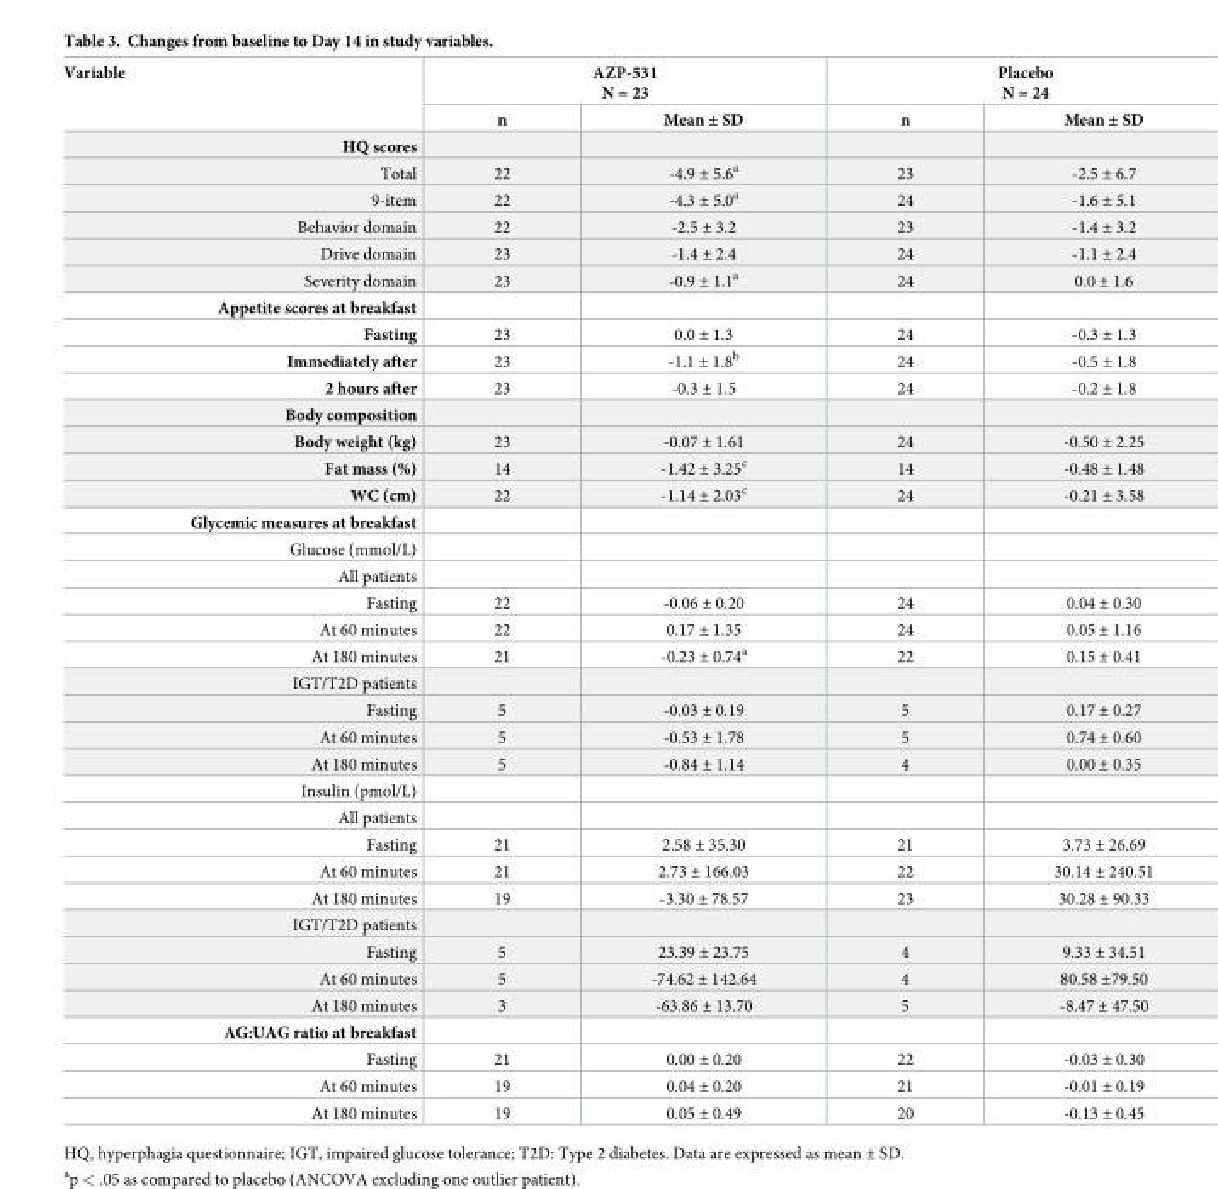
<table><thead><tr><td rowspan="2">Variable</td><td colspan="2">AZP-531 N = 23</td><td colspan="2">Placebo N = 24</td></tr><tr><td>n</td><td>Mean ± SD</td><td>n</td><td>Mean ± SD</td></tr></thead><tbody><tr><td colspan="5">HQ scores</td></tr><tr><td>Total</td><td>22</td><td>-4.9 ± 5.6<sup>a</sup></td><td>23</td><td>-2.5 ± 6.7</td></tr><tr><td>9-item</td><td>22</td><td>-4.3 ± 5.0<sup>a</sup></td><td>24</td><td>-1.6 ± 5.1</td></tr><tr><td>Behavior domain</td><td>22</td><td>-2.5 ± 3.2</td><td>23</td><td>-1.4 ± 3.2</td></tr><tr><td>Drive domain</td><td>23</td><td>-1.4 ± 2.4</td><td>24</td><td>-1.1 ± 2.4</td></tr><tr><td>Severity domain</td><td>23</td><td>-0.9 ± 1.1<sup>a</sup></td><td>24</td><td>0.0 ± 1.6</td></tr><tr><td colspan="5">Appetite scores at breakfast</td></tr><tr><td>Fasting</td><td>23</td><td>0.0 ± 1.3</td><td>24</td><td>-0.3 ± 1.3</td></tr><tr><td>Immediately after</td><td>23</td><td>-1.1 ± 1.8<sup>b</sup></td><td>24</td><td>-0.5 ± 1.8</td></tr><tr><td>2 hours after</td><td>23</td><td>-0.3 ± 1.5</td><td>24</td><td>-0.2 ± 1.8</td></tr><tr><td colspan="5">Body composition</td></tr><tr><td>Body weight (kg)</td><td>23</td><td>-0.07 ± 1.61</td><td>24</td><td>-0.50 ± 2.25</td></tr><tr><td>Fat mass (%)</td><td>14</td><td>-1.42 ± 3.25<sup>c</sup></td><td>14</td><td>-0.48 ± 1.48</td></tr><tr><td>WC (cm)</td><td>22</td><td>-1.14 ± 2.03<sup>c</sup></td><td>24</td><td>-0.21 ± 3.58</td></tr><tr><td colspan="5">Glycemic measures at breakfast</td></tr><tr><td colspan="5">Glucose (mmol/L)</td></tr><tr><td colspan="5">All patients</td></tr><tr><td>Fasting</td><td>22</td><td>-0.06 ± 0.20</td><td>24</td><td>0.04 ± 0.30</td></tr><tr><td>At 60 minutes</td><td>22</td><td>0.17 ± 1.35</td><td>24</td><td>0.05 ± 1.16</td></tr><tr><td>At 180 minutes</td><td>21</td><td>-0.23 ± 0.74<sup>a</sup></td><td>22</td><td>0.15 ± 0.41</td></tr><tr><td colspan="5">IGT/T2D patients</td></tr><tr><td>Fasting</td><td>5</td><td>-0.03 ± 0.19</td><td>5</td><td>0.17 ± 0.27</td></tr><tr><td>At 60 minutes</td><td>5</td><td>-0.53 ± 1.78</td><td>5</td><td>0.74 ± 0.60</td></tr><tr><td>At 180 minutes</td><td>5</td><td>-0.84 ± 1.14</td><td>4</td><td>0.00 ± 0.35</td></tr><tr><td colspan="5">Insulin (pmol/L)</td></tr><tr><td colspan="5">All patients</td></tr><tr><td>Fasting</td><td>21</td><td>2.58 ± 35.30</td><td>21</td><td>3.73 ± 26.69</td></tr><tr><td>At 60 minutes</td><td>21</td><td>2.73 ± 166.03</td><td>22</td><td>30.14 ± 240.51</td></tr><tr><td>At 180 minutes</td><td>19</td><td>-3.30 ± 78.57</td><td>23</td><td>30.28 ± 90.33</td></tr><tr><td colspan="5">IGT/T2D patients</td></tr><tr><td>Fasting</td><td>5</td><td>23.39 ± 23.75</td><td>4</td><td>9.33 ± 34.51</td></tr><tr><td>At 60 minutes</td><td>5</td><td>-74.62 ± 142.64</td><td>4</td><td>80.58 ±79.50</td></tr><tr><td>At 180 minutes</td><td>3</td><td>-63.86 ± 13.70</td><td>5</td><td>-8.47 ± 47.50</td></tr><tr><td colspan="5">AG:UAG ratio at breakfast</td></tr><tr><td>Fasting</td><td>21</td><td>0.00 ± 0.20</td><td>22</td><td>-0.03 ± 0.30</td></tr><tr><td>At 60 minutes</td><td>19</td><td>0.04 ± 0.20</td><td>21</td><td>-0.01 ± 0.19</td></tr><tr><td>At 180 minutes</td><td>19</td><td>0.05 ± 0.49</td><td>20</td><td>-0.13 ± 0.45</td></tr></tbody></table>